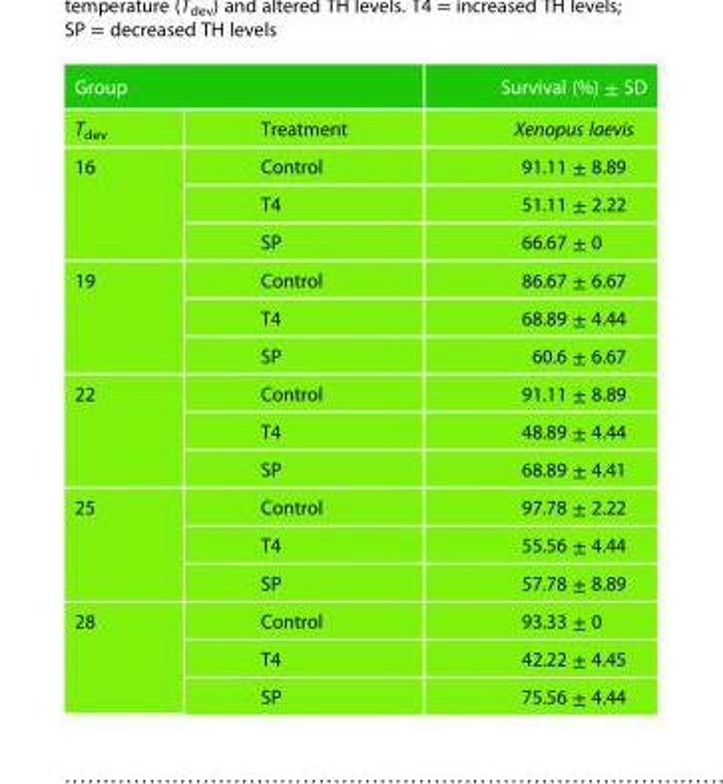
<table><thead><tr><td colspan="2">Group</td><td rowspan="2">Survival (%) ± SD Xenopus laevis</td></tr><tr><td>T<sub>dev</sub></td><td>Treatment</td></tr></thead><tbody><tr><td rowspan="3">16</td><td>Control</td><td>91.11 ± 8.89</td></tr><tr><td>T4</td><td>51.11 ± 2.22</td></tr><tr><td>SP</td><td>66.67 ± 0</td></tr><tr><td rowspan="3">19</td><td>Control</td><td>86.67 ± 6.67</td></tr><tr><td>T4</td><td>68.89 ± 4.44</td></tr><tr><td>SP</td><td>60.6 ± 6.67</td></tr><tr><td rowspan="3">22</td><td>Control</td><td>91.11 ± 8.89</td></tr><tr><td>T4</td><td>48.89 ± 4.44</td></tr><tr><td>SP</td><td>68.89 ± 4.41</td></tr><tr><td rowspan="3">25</td><td>Control</td><td>97.78 ± 2.22</td></tr><tr><td>T4</td><td>55.56 ± 4.44</td></tr><tr><td>SP</td><td>57.78 ± 8.89</td></tr><tr><td rowspan="3">28</td><td>Control</td><td>93.33 ± 0</td></tr><tr><td>T4</td><td>42.22 ± 4.45</td></tr><tr><td>SP</td><td>75.56 ± 4.44</td></tr></tbody></table>